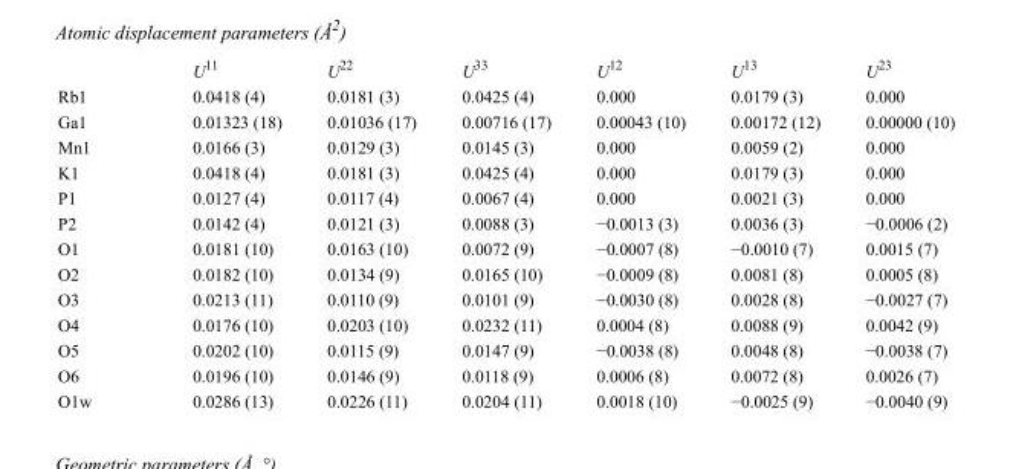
<table><thead><tr><td></td><td>U<sup>11</sup></td><td>U<sup>22</sup></td><td>U<sup>33</sup></td><td>U<sup>12</sup></td><td>U<sup>13</sup></td><td>U<sup>23</sup></td></tr></thead><tbody><tr><td>Rb1</td><td>0.0418 (4)</td><td>0.0181 (3)</td><td>0.0425 (4)</td><td>0.000</td><td>0.0179 (3)</td><td>0.000</td></tr><tr><td>Ga1</td><td>0.01323 (18)</td><td>0.01036 (17)</td><td>0.00716 (17)</td><td>0.00043 (10)</td><td>0.00172 (12)</td><td>0.00000 (10)</td></tr><tr><td>Mn1</td><td>0.0166 (3)</td><td>0.0129 (3)</td><td>0.0145 (3)</td><td>0.000</td><td>0.0059 (2)</td><td>0.000</td></tr><tr><td>K1</td><td>0.0418 (4)</td><td>0.0181 (3)</td><td>0.0425 (4)</td><td>0.000</td><td>0.0179 (3)</td><td>0.000</td></tr><tr><td>P1</td><td>0.0127 (4)</td><td>0.0117 (4)</td><td>0.0067 (4)</td><td>0.000</td><td>0.0021 (3)</td><td>0.000</td></tr><tr><td>P2</td><td>0.0142 (4)</td><td>0.0121 (3)</td><td>0.0088 (3)</td><td>−0.0013 (3)</td><td>0.0036 (3)</td><td>−0.0006 (2)</td></tr><tr><td>O1</td><td>0.0181 (10)</td><td>0.0163 (10)</td><td>0.0072 (9)</td><td>−0.0007 (8)</td><td>−0.0010 (7)</td><td>0.0015 (7)</td></tr><tr><td>O2</td><td>0.0182 (10)</td><td>0.0134 (9)</td><td>0.0165 (10)</td><td>−0.0009 (8)</td><td>0.0081 (8)</td><td>0.0005 (8)</td></tr><tr><td>O3</td><td>0.0213 (11)</td><td>0.0110 (9)</td><td>0.0101 (9)</td><td>−0.0030 (8)</td><td>0.0028 (8)</td><td>−0.0027 (7)</td></tr><tr><td>O4</td><td>0.0176 (10)</td><td>0.0203 (10)</td><td>0.0232 (11)</td><td>0.0004 (8)</td><td>0.0088 (9)</td><td>0.0042 (9)</td></tr><tr><td>O5</td><td>0.0202 (10)</td><td>0.0115 (9)</td><td>0.0147 (9)</td><td>−0.0038 (8)</td><td>0.0048 (8)</td><td>−0.0038 (7)</td></tr><tr><td>O6</td><td>0.0196 (10)</td><td>0.0146 (9)</td><td>0.0118 (9)</td><td>0.0006 (8)</td><td>0.0072 (8)</td><td>0.0026 (7)</td></tr><tr><td>O1w</td><td>0.0286 (13)</td><td>0.0226 (11)</td><td>0.0204 (11)</td><td>0.0018 (10)</td><td>−0.0025 (9)</td><td>−0.0040 (9)</td></tr></tbody></table>